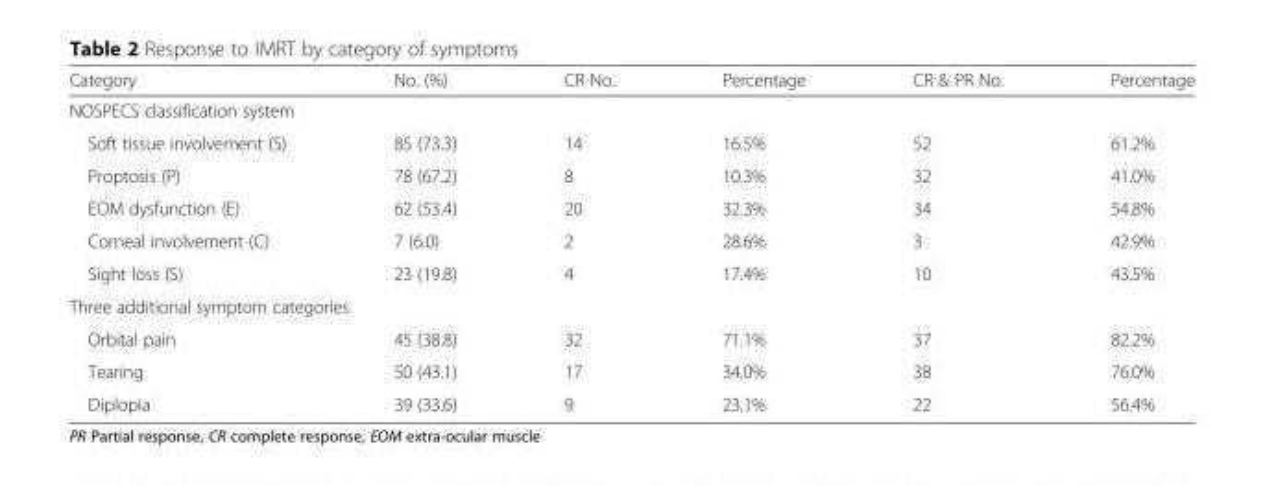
<table><thead><tr><td>Category</td><td>No. (%)</td><td>CR No.</td><td>Percentage</td><td>CR &amp; PR No.</td><td>Percentage</td></tr></thead><tbody><tr><td colspan="6">NOSPECS classification system</td></tr><tr><td>Soft tissue involvement (S)</td><td>85 (73.3)</td><td>14</td><td>16.5%</td><td>52</td><td>61.2%</td></tr><tr><td>Proptosis (P)</td><td>78 (67.2)</td><td>8</td><td>10.3%</td><td>32</td><td>41.0%</td></tr><tr><td>EOM dysfunction (E)</td><td>62 (53.4)</td><td>20</td><td>32.3%</td><td>34</td><td>54.8%</td></tr><tr><td>Corneal involvement (C)</td><td>7 (6.0)</td><td>2</td><td>28.6%</td><td>3</td><td>42.9%</td></tr><tr><td>Sight loss (S)</td><td>23 (19.8)</td><td>4</td><td>17.4%</td><td>10</td><td>43.5%</td></tr><tr><td colspan="6">Three additional symptom categories</td></tr><tr><td>Orbital pain</td><td>45 (38.8)</td><td>32</td><td>71.1%</td><td>37</td><td>82.2%</td></tr><tr><td>Tearing</td><td>50 (43.1)</td><td>17</td><td>34.0%</td><td>38</td><td>76.0%</td></tr><tr><td>Diplopia</td><td>39 (33.6)</td><td>9</td><td>23.1%</td><td>22</td><td>56.4%</td></tr></tbody></table>